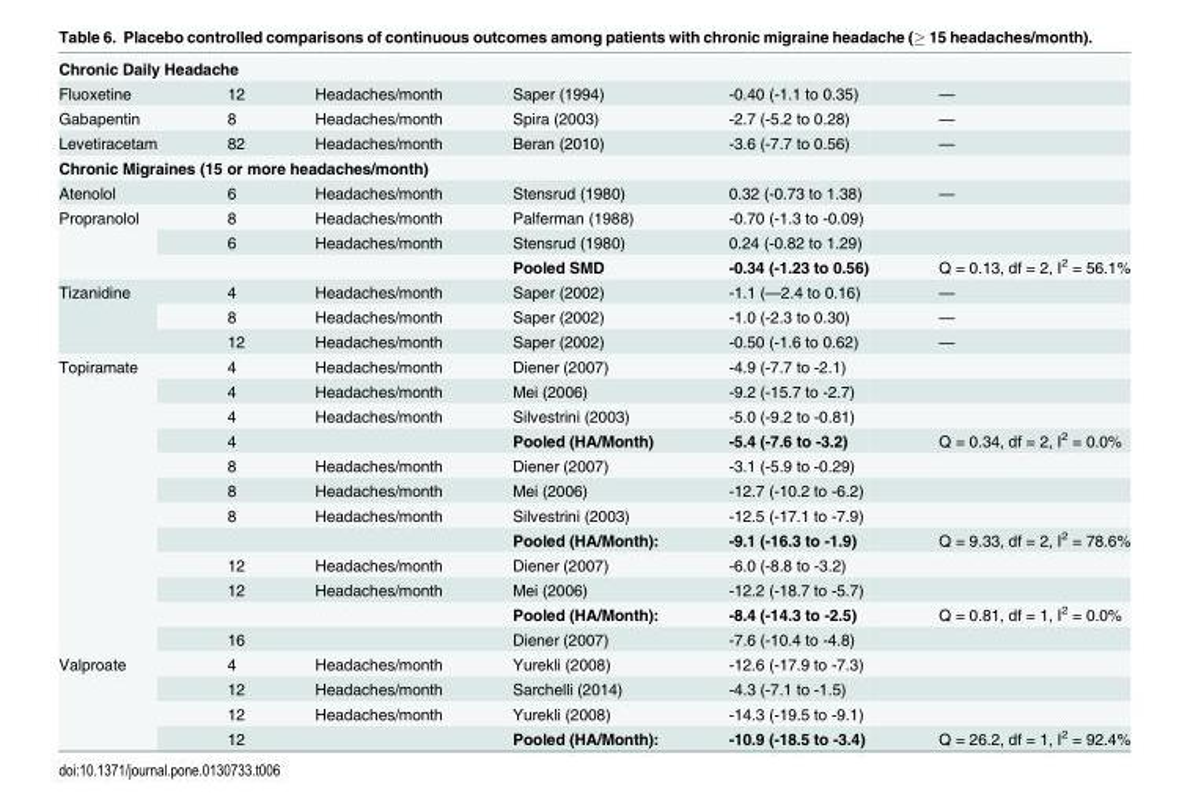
<table><tbody><tr><td colspan="6">Chronic Daily Headache</td></tr><tr><td>Fluoxetine</td><td>12</td><td>Headaches/month</td><td>Saper (1994)</td><td>-0.40 (-1.1 to 0.35)</td><td>—</td></tr><tr><td>Gabapentin</td><td>8</td><td>Headaches/month</td><td>Spira (2003)</td><td>-2.7 (-5.2 to 0.28)</td><td>—</td></tr><tr><td>Levetiracetam</td><td>82</td><td>Headaches/month</td><td>Beran (2010)</td><td>-3.6 (-7.7 to 0.56)</td><td>—</td></tr><tr><td colspan="6">Chronic Migraines (15 or more headaches/month)</td></tr><tr><td>Atenolol</td><td>6</td><td>Headaches/month</td><td>Stensrud (1980)</td><td>0.32 (-0.73 to 1.38)</td><td>—</td></tr><tr><td rowspan="3">Propranolol</td><td>8</td><td>Headaches/month</td><td>Palferman (1988)</td><td>-0.70 (-1.3 to -0.09)</td><td></td></tr><tr><td>6</td><td>Headaches/month</td><td>Stensrud (1980)</td><td>0.24 (-0.82 to 1.29)</td><td></td></tr><tr><td></td><td></td><td>Pooled SMD</td><td>-0.34 (-1.23 to 0.56)</td><td>Q = 0.13, df = 2, I<sup>2</sup> = 56.1%</td></tr><tr><td rowspan="3">Tizanidine</td><td>4</td><td>Headaches/month</td><td>Saper (2002)</td><td>-1.1 (—2.4 to 0.16)</td><td>—</td></tr><tr><td>8</td><td>Headaches/month</td><td>Saper (2002)</td><td>-1.0 (-2.3 to 0.30)</td><td>—</td></tr><tr><td>12</td><td>Headaches/month</td><td>Saper (2002)</td><td>-0.50 (-1.6 to 0.62)</td><td>—</td></tr><tr><td rowspan="12">Topiramate</td><td>4</td><td>Headaches/month</td><td>Diener (2007)</td><td>-4.9 (-7.7 to -2.1)</td><td></td></tr><tr><td>4</td><td>Headaches/month</td><td>Mei (2006)</td><td>-9.2 (-15.7 to -2.7)</td><td></td></tr><tr><td>4</td><td>Headaches/month</td><td>Silvestrini (2003)</td><td>-5.0 (-9.2 to -0.81)</td><td></td></tr><tr><td>4</td><td></td><td>Pooled (HA/Month)</td><td>-5.4 (-7.6 to -3.2)</td><td>Q = 0.34, df = 2, I<sup>2</sup> = 0.0%</td></tr><tr><td>8</td><td>Headaches/month</td><td>Diener (2007)</td><td>-3.1 (-5.9 to -0.29)</td><td></td></tr><tr><td>8</td><td>Headaches/month</td><td>Mei (2006)</td><td>-12.7 (-10.2 to -6.2)</td><td></td></tr><tr><td>8</td><td>Headaches/month</td><td>Silvestrini (2003)</td><td>-12.5 (-17.1 to -7.9)</td><td></td></tr><tr><td></td><td></td><td>Pooled (HA/Month):</td><td>-9.1 (-16.3 to -1.9)</td><td>Q = 9.33, df = 2, I<sup>2</sup> = 78.6%</td></tr><tr><td>12</td><td>Headaches/month</td><td>Diener (2007)</td><td>-6.0 (-8.8 to -3.2)</td><td></td></tr><tr><td>12</td><td>Headaches/month</td><td>Mei (2006)</td><td>-12.2 (-18.7 to -5.7)</td><td></td></tr><tr><td></td><td></td><td>Pooled (HA/Month):</td><td>-8.4 (-14.3 to -2.5)</td><td>Q = 0.81, df = 1, I<sup>2</sup> = 0.0%</td></tr><tr><td>16</td><td></td><td>Diener (2007)</td><td>-7.6 (-10.4 to -4.8)</td><td></td></tr><tr><td rowspan="4">Valproate</td><td>4</td><td>Headaches/month</td><td>Yurekli (2008)</td><td>-12.6 (-17.9 to -7.3)</td><td></td></tr><tr><td>12</td><td>Headaches/month</td><td>Sarchelli (2014)</td><td>-4.3 (-7.1 to -1.5)</td><td></td></tr><tr><td>12</td><td>Headaches/month</td><td>Yurekli (2008)</td><td>-14.3 (-19.5 to -9.1)</td><td></td></tr><tr><td>12</td><td></td><td>Pooled (HA/Month):</td><td>-10.9 (-18.5 to -3.4)</td><td>Q = 26.2, df = 1, I<sup>2</sup> = 92.4%</td></tr></tbody></table>